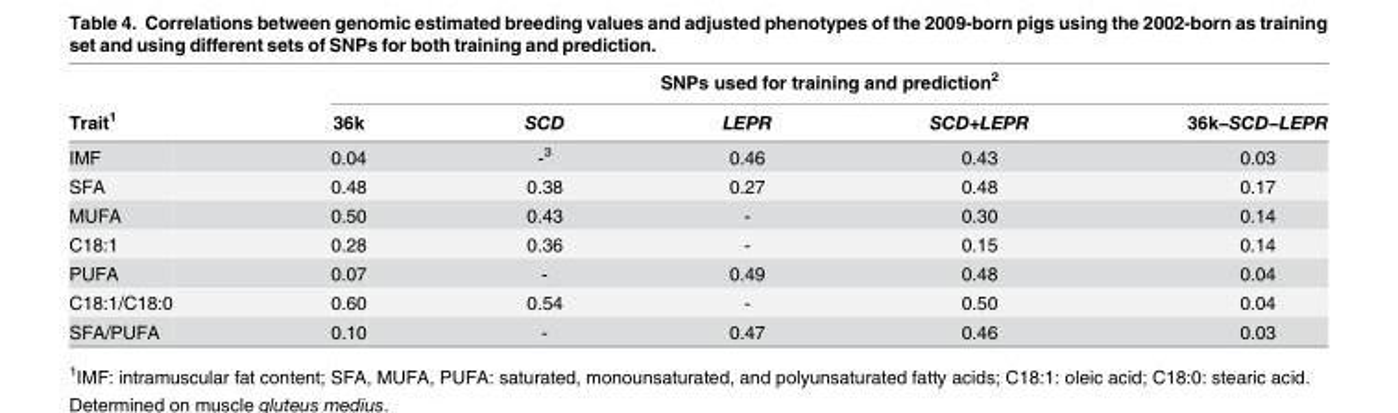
<table><thead><tr><td rowspan="2">Trait<sup>1</sup></td><td colspan="5">SNPs used for training and prediction<sup>2</sup></td></tr><tr><td>36k</td><td>SCD</td><td>LEPR</td><td>SCD+LEPR</td><td>36k−SCD−LEPR</td></tr></thead><tbody><tr><td>IMF</td><td>0.04</td><td>-<sup>3</sup></td><td>0.46</td><td>0.43</td><td>0.03</td></tr><tr><td>SFA</td><td>0.48</td><td>0.38</td><td>0.27</td><td>0.48</td><td>0.17</td></tr><tr><td>MUFA</td><td>0.50</td><td>0.43</td><td>-</td><td>0.30</td><td>0.14</td></tr><tr><td>C18:1</td><td>0.28</td><td>0.36</td><td>-</td><td>0.15</td><td>0.14</td></tr><tr><td>PUFA</td><td>0.07</td><td>-</td><td>0.49</td><td>0.48</td><td>0.04</td></tr><tr><td>C18:1/C18:0</td><td>0.60</td><td>0.54</td><td>-</td><td>0.50</td><td>0.04</td></tr><tr><td>SFA/PUFA</td><td>0.10</td><td>-</td><td>0.47</td><td>0.46</td><td>0.03</td></tr></tbody></table>